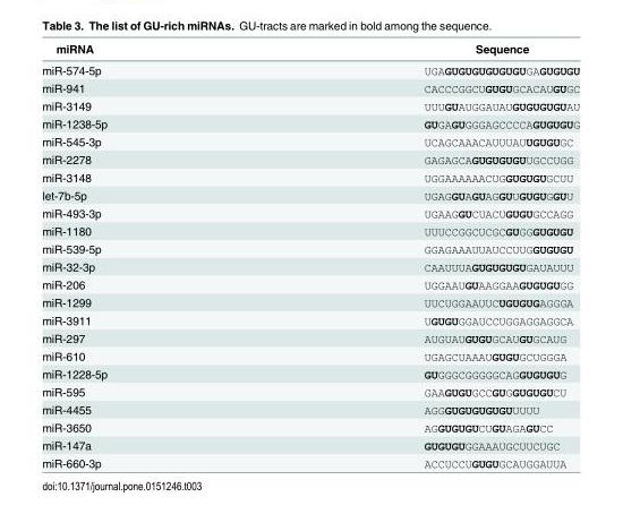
<table><thead><tr><td>miRNA</td><td>Sequence</td></tr></thead><tbody><tr><td>miR-574-5p</td><td>UGAGUGUGUGUGUGUGAGUGUGU</td></tr><tr><td>miR-941</td><td>CACCCGGCUGUGUGCACAUGUGC</td></tr><tr><td>miR-3149</td><td>UUUGUAUGGAUAUGUGUGUGUAU</td></tr><tr><td>miR-1238-5p</td><td>GUGAGUGGGAGCCCCAGUGUGUG</td></tr><tr><td>miR-545-3p</td><td>UCAGCAAACAUUUAUUGUGUGC</td></tr><tr><td>miR-2278</td><td>GAGAGCAGUGUGUGUUGCCUGG</td></tr><tr><td>miR-3148</td><td>UGGAAAAAACUGGUGUGUGCUU</td></tr><tr><td>let-7b-5p</td><td>UGAGGUAGUAGGUUGUGUGGUU</td></tr><tr><td>miR-493-3p</td><td>UGAAGGUCUACUGUGUGCCAGG</td></tr><tr><td>miR-1180</td><td>UUUCCGGCUCGCGUGGGUGUGU</td></tr><tr><td>miR-539-5p</td><td>GGAGAAAUUAUCCUUGGUGUGU</td></tr><tr><td>miR-32-3p</td><td>CAAUUUAGUGUGUGUGAUAUUU</td></tr><tr><td>miR-206</td><td>UGGAAUGUAAGGAAGUGUGUGG</td></tr><tr><td>miR-1299</td><td>UUCUGGAAUUCUGUGUGAGGGA</td></tr><tr><td>miR-3911</td><td>UGUGUGGAUCCUGGAGGAGGCA</td></tr><tr><td>miR-297</td><td>AUGUAUGUGUGCAUGUGCAUG</td></tr><tr><td>miR-610</td><td>UGAGCUAAAUGUGUGCUGGGA</td></tr><tr><td>miR-1228-5p</td><td>GUGGGCGGGGGCAGGUGUGUG</td></tr><tr><td>miR-595</td><td>GAAGUGUGCCGUGGUGUGUCU</td></tr><tr><td>miR-4455</td><td>AGGGUGUGUGUGUUUUU</td></tr><tr><td>miR-3650</td><td>AGGUGUGUCUGUAGAGUCC</td></tr><tr><td>miR-147a</td><td>GUGUGUGGAAAUGCUUCUGC</td></tr><tr><td>miR-660-3p</td><td>ACCUCCUGUGUGCAUGGAUUA</td></tr></tbody></table>